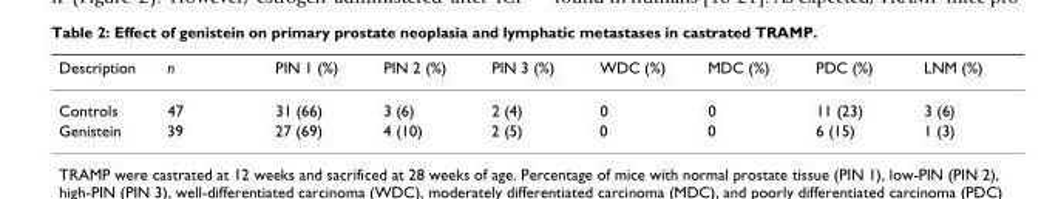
<table><thead><tr><td>Description</td><td>n</td><td>PIN 1 (%)</td><td>PIN 2 (%)</td><td>PIN 3 (%)</td><td>WDC (%)</td><td>MDC (%)</td><td>PDC (%)</td><td>LNM (%)</td></tr></thead><tbody><tr><td>Controls</td><td>47</td><td>31 (66)</td><td>3 (6)</td><td>2 (4)</td><td>0</td><td>0</td><td>11 (23)</td><td>3 (6)</td></tr><tr><td>Genistein</td><td>39</td><td>27 (69)</td><td>4 (10)</td><td>2 (5)</td><td>0</td><td>0</td><td>6 (15)</td><td>1 (3)</td></tr></tbody></table>